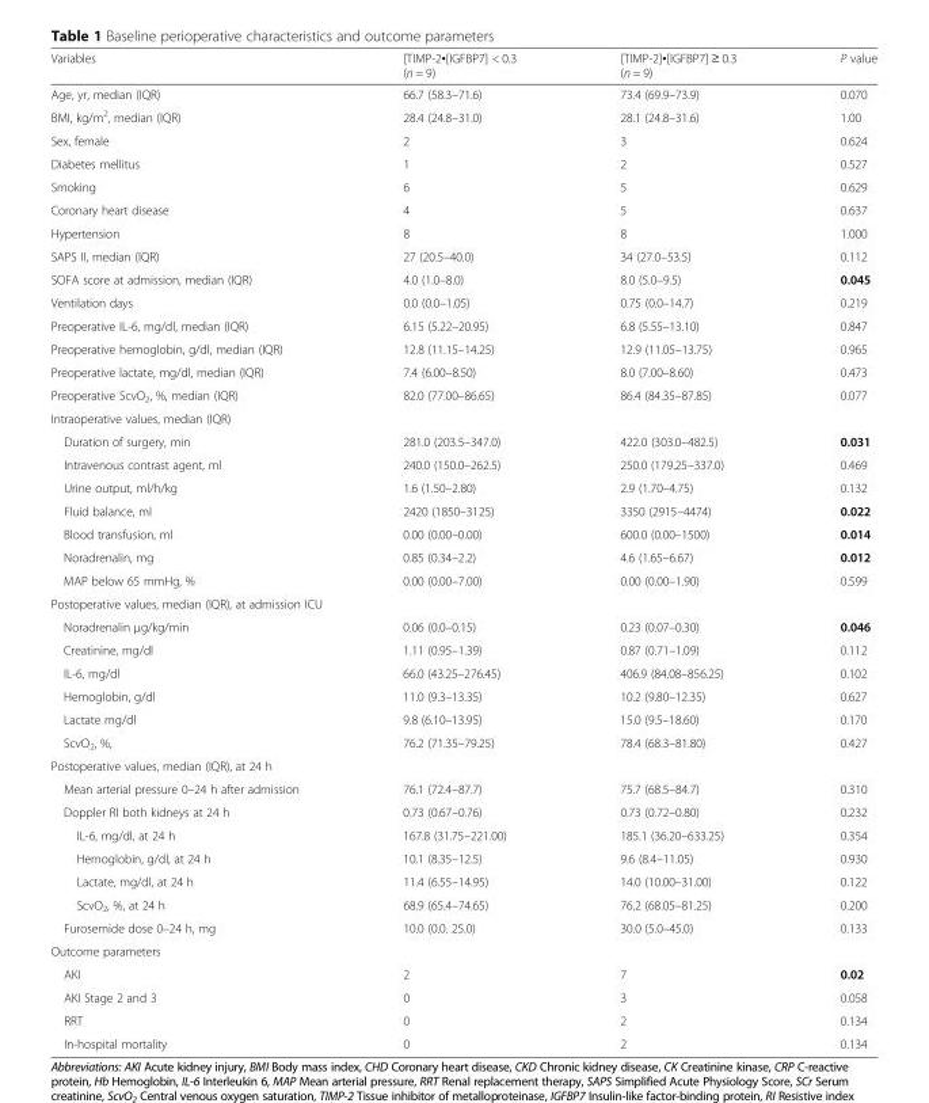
<table><thead><tr><td>Variables</td><td>[TIMP-2•[IGFBP7] &lt; 0.3 (n = 9)</td><td>[TIMP-2]•[IGFBP7] ≥ 0.3 (n = 9)</td><td>P value</td></tr></thead><tbody><tr><td>Age, yr, median (IQR)</td><td>66.7 (58.3–71.6)</td><td>73.4 (69.9–73.9)</td><td>0.070</td></tr><tr><td>BMI, kg/m<sup>2</sup>, median (IQR)</td><td>28.4 (24.8–31.0)</td><td>28.1 (24.8–31.6)</td><td>1.00</td></tr><tr><td>Sex, female</td><td>2</td><td>3</td><td>0.624</td></tr><tr><td>Diabetes mellitus</td><td>1</td><td>2</td><td>0.527</td></tr><tr><td>Smoking</td><td>6</td><td>5</td><td>0.629</td></tr><tr><td>Coronary heart disease</td><td>4</td><td>5</td><td>0.637</td></tr><tr><td>Hypertension</td><td>8</td><td>8</td><td>1.000</td></tr><tr><td>SAPS II, median (IQR)</td><td>27 (20.5–40.0)</td><td>34 (27.0–53.5)</td><td>0.112</td></tr><tr><td>SOFA score at admission, median (IQR)</td><td>4.0 (1.0–8.0)</td><td>8.0 (5.0–9.5)</td><td>0.045</td></tr><tr><td>Ventilation days</td><td>0.0 (0.0–1.05)</td><td>0.75 (0.0–14.7)</td><td>0.219</td></tr><tr><td>Preoperative IL-6, mg/dl, median (IQR)</td><td>6.15 (5.22–20.95)</td><td>6.8 (5.55–13.10)</td><td>0.847</td></tr><tr><td>Preoperative hemoglobin, g/dl, median (IQR)</td><td>12.8 (11.15–14.25)</td><td>12.9 (11.05–13.75)</td><td>0.965</td></tr><tr><td>Preoperative lactate, mg/dl, median (IQR)</td><td>7.4 (6.00–8.50)</td><td>8.0 (7.00–8.60)</td><td>0.473</td></tr><tr><td>Preoperative ScvO<sub>2</sub>, %, median (IQR)</td><td>82.0 (77.00–86.65)</td><td>86.4 (84.35–87.85)</td><td>0.077</td></tr><tr><td colspan="4">Intraoperative values, median (IQR)</td></tr><tr><td>Duration of surgery, min</td><td>281.0 (203.5–347.0)</td><td>422.0 (303.0–482.5)</td><td>0.031</td></tr><tr><td>Intravenous contrast agent, ml</td><td>240.0 (150.0–262.5)</td><td>250.0 (179.25–337.0)</td><td>0.469</td></tr><tr><td>Urine output, ml/h/kg</td><td>1.6 (1.50–2.80)</td><td>2.9 (1.70–4.75)</td><td>0.132</td></tr><tr><td>Fluid balance, ml</td><td>2420 (1850–3125)</td><td>3350 (2915–4474)</td><td>0.022</td></tr><tr><td>Blood transfusion, ml</td><td>0.00 (0.00–0.00)</td><td>600.0 (0.00–1500)</td><td>0.014</td></tr><tr><td>Noradrenalin, mg</td><td>0.85 (0.34–2.2)</td><td>4.6 (1.65–6.67)</td><td>0.012</td></tr><tr><td>MAP below 65 mmHg, %</td><td>0.00 (0.00–7.00)</td><td>0.00 (0.00–1.90)</td><td>0.599</td></tr><tr><td colspan="4">Postoperative values, median (IQR), at admission ICU</td></tr><tr><td>Noradrenalin μg/kg/min</td><td>0.06 (0.0–0.15)</td><td>0.23 (0.07–0.30)</td><td>0.046</td></tr><tr><td>Creatinine, mg/dl</td><td>1.11 (0.95–1.39)</td><td>0.87 (0.71–1.09)</td><td>0.112</td></tr><tr><td>IL-6, mg/dl</td><td>66.0 (43.25–276.45)</td><td>406.9 (84.08–856.25)</td><td>0.102</td></tr><tr><td>Hemoglobin, g/dl</td><td>11.0 (9.3–13.35)</td><td>10.2 (9.80–12.35)</td><td>0.627</td></tr><tr><td>Lactate mg/dl</td><td>9.8 (6.10–13.95)</td><td>15.0 (9.5–18.60)</td><td>0.170</td></tr><tr><td>ScvO<sub>2</sub>, %,</td><td>76.2 (71.35–79.25)</td><td>78.4 (68.3–81.80)</td><td>0.427</td></tr><tr><td colspan="4">Postoperative values, median (IQR), at 24 h</td></tr><tr><td>Mean arterial pressure 0–24 h after admission</td><td>76.1 (72.4–87.7)</td><td>75.7 (68.5–84.7)</td><td>0.310</td></tr><tr><td>Doppler RI both kidneys at 24 h</td><td>0.73 (0.67–0.76)</td><td>0.73 (0.72–0.80)</td><td>0.232</td></tr><tr><td>IL-6, mg/dl, at 24 h</td><td>167.8 (31.75–221.00)</td><td>185.1 (36.20–633.25)</td><td>0.354</td></tr><tr><td>Hemoglobin, g/dl, at 24 h</td><td>10.1 (8.35–12.5)</td><td>9.6 (8.4–11.05)</td><td>0.930</td></tr><tr><td>Lactate, mg/dl, at 24 h</td><td>11.4 (6.55–14.95)</td><td>14.0 (10.00–31.00)</td><td>0.122</td></tr><tr><td>ScvO<sub>2</sub>, %, at 24 h</td><td>68.9 (65.4–74.65)</td><td>76.2 (68.05–81.25)</td><td>0.200</td></tr><tr><td>Furosemide dose 0–24 h, mg</td><td>10.0 (0.0. 25.0)</td><td>30.0 (5.0–45.0)</td><td>0.133</td></tr><tr><td colspan="4">Outcome parameters</td></tr><tr><td>AKI</td><td>2</td><td>7</td><td>0.02</td></tr><tr><td>AKI Stage 2 and 3</td><td>0</td><td>3</td><td>0.058</td></tr><tr><td>RRT</td><td>0</td><td>2</td><td>0.134</td></tr><tr><td>In-hospital mortality</td><td>0</td><td>2</td><td>0.134</td></tr></tbody></table>